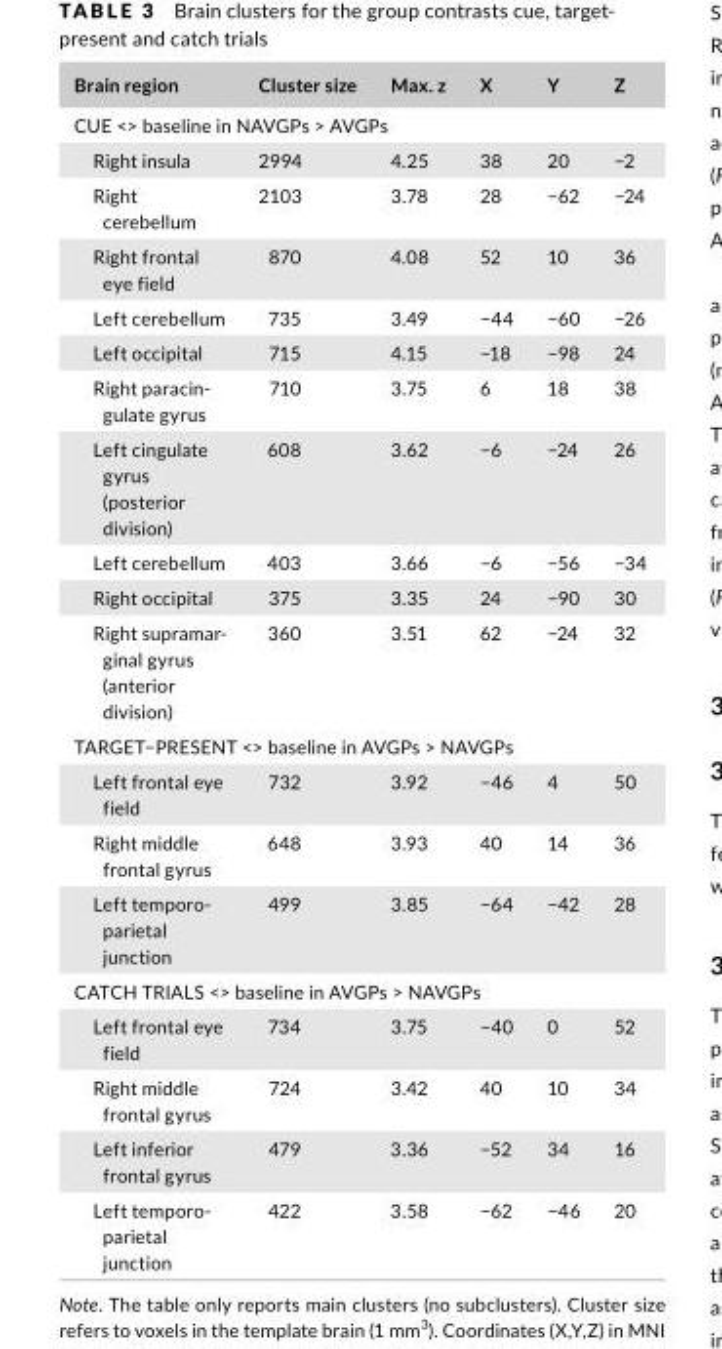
<table><thead><tr><td>Brain region</td><td>Cluster size</td><td>Max. z</td><td>X</td><td>Y</td><td>Z</td></tr></thead><tbody><tr><td colspan="6">CUE &lt;&gt; baseline in NAVGPs &gt; AVGPs</td></tr><tr><td>Right insula</td><td>2994</td><td>4.25</td><td>38</td><td>20</td><td>−2</td></tr><tr><td>Right cerebellum</td><td>2103</td><td>3.78</td><td>28</td><td>−62</td><td>−24</td></tr><tr><td>Right frontal eye field</td><td>870</td><td>4.08</td><td>52</td><td>10</td><td>36</td></tr><tr><td>Left cerebellum</td><td>735</td><td>3.49</td><td>−44</td><td>−60</td><td>−26</td></tr><tr><td>Left occipital</td><td>715</td><td>4.15</td><td>−18</td><td>−98</td><td>24</td></tr><tr><td>Right paracin- gulate gyrus</td><td>710</td><td>3.75</td><td>6</td><td>18</td><td>38</td></tr><tr><td>Left cingulate gyrus (posterior division)</td><td>608</td><td>3.62</td><td>−6</td><td>−24</td><td>26</td></tr><tr><td>Left cerebellum</td><td>403</td><td>3.66</td><td>−6</td><td>−56</td><td>−34</td></tr><tr><td>Right occipital</td><td>375</td><td>3.35</td><td>24</td><td>−90</td><td>30</td></tr><tr><td>Right supramar- ginal gyrus (anterior division)</td><td>360</td><td>3.51</td><td>62</td><td>−24</td><td>32</td></tr><tr><td colspan="6">TARGET−PRESENT &lt;&gt; baseline in AVGPs &gt; NAVGPs</td></tr><tr><td>Left frontal eye field</td><td>732</td><td>3.92</td><td>−46</td><td>4</td><td>50</td></tr><tr><td>Right middle frontal gyrus</td><td>648</td><td>3.93</td><td>40</td><td>14</td><td>36</td></tr><tr><td>Left temporo- parietal junction</td><td>499</td><td>3.85</td><td>−64</td><td>−42</td><td>28</td></tr><tr><td colspan="6">CATCH TRIALS &lt;&gt; baseline in AVGPs &gt; NAVGPs</td></tr><tr><td>Left frontal eye field</td><td>734</td><td>3.75</td><td>−40</td><td>0</td><td>52</td></tr><tr><td>Right middle frontal gyrus</td><td>724</td><td>3.42</td><td>40</td><td>10</td><td>34</td></tr><tr><td>Left inferior frontal gyrus</td><td>479</td><td>3.36</td><td>−52</td><td>34</td><td>16</td></tr><tr><td>Left temporo- parietal junction</td><td>422</td><td>3.58</td><td>−62</td><td>−46</td><td>20</td></tr></tbody></table>